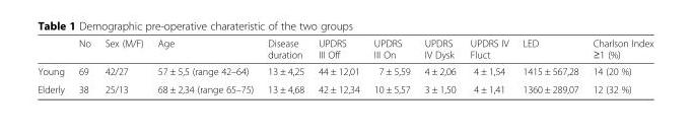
<table><thead><tr><td></td><td>No</td><td>Sex (M/F)</td><td>Age</td><td>Disease duration</td><td>UPDRS III Off</td><td>UPDRS III On</td><td>UPDRS IV Dysk</td><td>UPDRS IV Fluct</td><td>LED</td><td>Charlson Index ≥1 (%)</td></tr></thead><tbody><tr><td>Young</td><td>69</td><td>42/27</td><td>57 ± 5,5 (range 42–64)</td><td>13 ± 4,25</td><td>44 ± 12,01</td><td>7 ± 5,59</td><td>4 ± 2,06</td><td>4 ± 1,54</td><td>1415 ± 567,28</td><td>14 (20 %)</td></tr><tr><td>Elderly</td><td>38</td><td>25/13</td><td>68 ± 2,34 (range 65–75)</td><td>13 ± 4,68</td><td>42 ± 12,34</td><td>10 ± 5,57</td><td>3 ± 1,50</td><td>4 ± 1,41</td><td>1360 ± 289,07</td><td>12 (32 %)</td></tr></tbody></table>